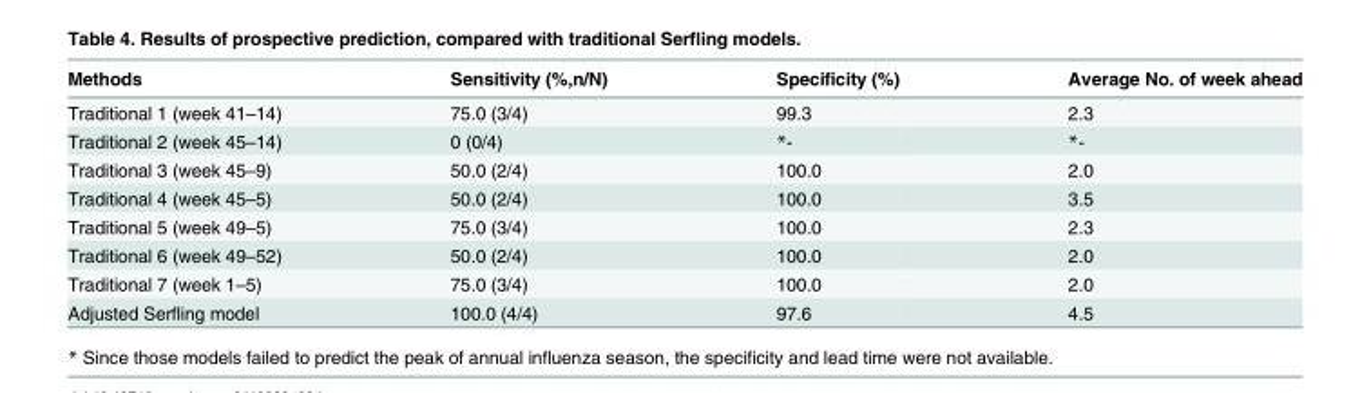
<table><thead><tr><td>Methods</td><td>Sensitivity (%,n/N)</td><td>Specificity (%)</td><td>Average No. of week ahead</td></tr></thead><tbody><tr><td>Traditional 1 (week 41–14)</td><td>75.0 (3/4)</td><td>99.3</td><td>2.3</td></tr><tr><td>Traditional 2 (week 45–14)</td><td>0 (0/4)</td><td>*-</td><td>*-</td></tr><tr><td>Traditional 3 (week 45–9)</td><td>50.0 (2/4)</td><td>100.0</td><td>2.0</td></tr><tr><td>Traditional 4 (week 45–5)</td><td>50.0 (2/4)</td><td>100.0</td><td>3.5</td></tr><tr><td>Traditional 5 (week 49–5)</td><td>75.0 (3/4)</td><td>100.0</td><td>2.3</td></tr><tr><td>Traditional 6 (week 49–52)</td><td>50.0 (2/4)</td><td>100.0</td><td>2.0</td></tr><tr><td>Traditional 7 (week 1–5)</td><td>75.0 (3/4)</td><td>100.0</td><td>2.0</td></tr><tr><td>Adjusted Serfling model</td><td>100.0 (4/4)</td><td>97.6</td><td>4.5</td></tr></tbody></table>